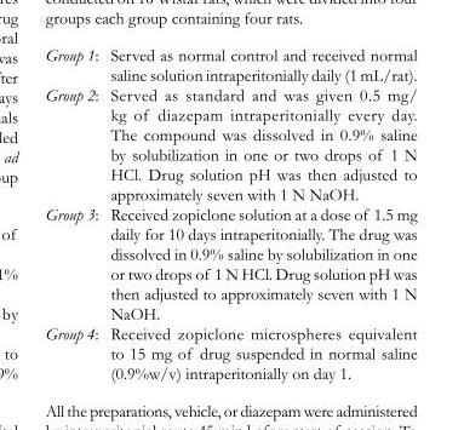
<table><tbody><tr><td>Group 1:</td><td>Served as normal control and received normal saline solution intraperitonially daily (1 mL/rat).</td></tr><tr><td>Group 2:</td><td>Served as standard and was given 0.5 mg/ kg of diazepam intraperitonially every day. The compound was dissolved in 0.9% saline by solubilization in one or two drops of 1 N HCl. Drug solution pH was then adjusted to approximately seven with 1 N NaOH.</td></tr><tr><td>Group 3:</td><td>Received zopiclone solution at a dose of 1.5 mg daily for 10 days intraperitonially. The drug was dissolved in 0.9% saline by solubilization in one or two drops of 1 N HCl. Drug solution pH was then adjusted to approximately seven with 1 N NaOH.</td></tr><tr><td>Group 4:</td><td>Received zopiclone microspheres equivalent to 15 mg of drug suspended in normal saline (0.9%w/v) intraperitonially on day 1.</td></tr></tbody></table>